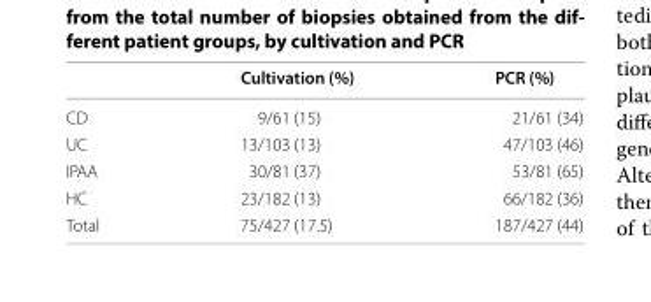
<table><thead><tr><td></td><td>Cultivation (%)</td><td>PCR (%)</td></tr></thead><tbody><tr><td>CD</td><td>9/61 (15)</td><td>21/61 (34)</td></tr><tr><td>UC</td><td>13/103 (13)</td><td>47/103 (46)</td></tr><tr><td>IPAA</td><td>30/81 (37)</td><td>53/81 (65)</td></tr><tr><td>HC</td><td>23/182 (13)</td><td>66/182 (36)</td></tr><tr><td>Total</td><td>75/427 (17.5)</td><td>187/427 (44)</td></tr></tbody></table>